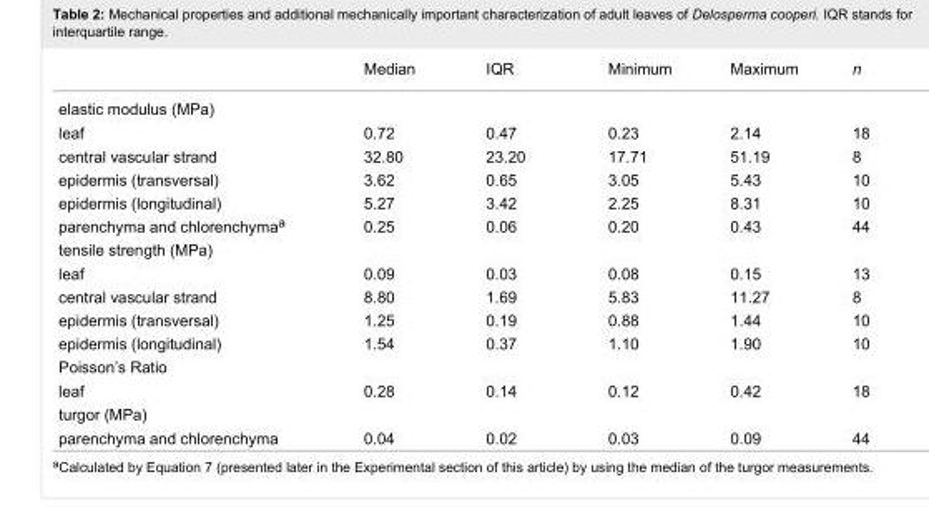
<table><thead><tr><td></td><td>Median</td><td>IQR</td><td>Minimum</td><td>Maximum</td><td>n</td></tr></thead><tbody><tr><td colspan="6">elastic modulus (MPa)</td></tr><tr><td>leaf</td><td>0.72</td><td>0.47</td><td>0.23</td><td>2.14</td><td>18</td></tr><tr><td>central vascular strand</td><td>32.80</td><td>23.20</td><td>17.71</td><td>51.19</td><td>8</td></tr><tr><td>epidermis (transversal)</td><td>3.62</td><td>0.65</td><td>3.05</td><td>5.43</td><td>10</td></tr><tr><td>epidermis (longitudinal)</td><td>5.27</td><td>3.42</td><td>2.25</td><td>8.31</td><td>10</td></tr><tr><td>parenchyma and chlorenchyma<sup>a</sup></td><td>0.25</td><td>0.06</td><td>0.20</td><td>0.43</td><td>44</td></tr><tr><td colspan="6">tensile strength (MPa)</td></tr><tr><td>leaf</td><td>0.09</td><td>0.03</td><td>0.08</td><td>0.15</td><td>13</td></tr><tr><td>central vascular strand</td><td>8.80</td><td>1.69</td><td>5.83</td><td>11.27</td><td>8</td></tr><tr><td>epidermis (transversal)</td><td>1.25</td><td>0.19</td><td>0.88</td><td>1.44</td><td>10</td></tr><tr><td>epidermis (longitudinal)</td><td>1.54</td><td>0.37</td><td>1.10</td><td>1.90</td><td>10</td></tr><tr><td colspan="6">Poisson’s Ratio</td></tr><tr><td>leaf</td><td>0.28</td><td>0.14</td><td>0.12</td><td>0.42</td><td>18</td></tr><tr><td colspan="6">turgor (MPa)</td></tr><tr><td>parenchyma and chlorenchyma</td><td>0.04</td><td>0.02</td><td>0.03</td><td>0.09</td><td>44</td></tr></tbody></table>